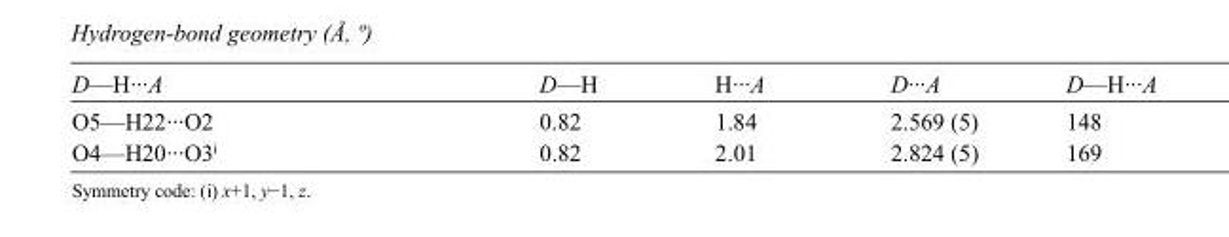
<table><tbody><tr><td>D—H···A</td><td>D—H</td><td>H···A</td><td>D···A</td><td>D—H···A</td></tr><tr><td>O5—H22···O2</td><td>0.82</td><td>1.84</td><td>2.569 (5)</td><td>148</td></tr><tr><td>O4—H20···O3<sup>i</sup></td><td>0.82</td><td>2.01</td><td>2.824 (5)</td><td>169</td></tr></tbody></table>